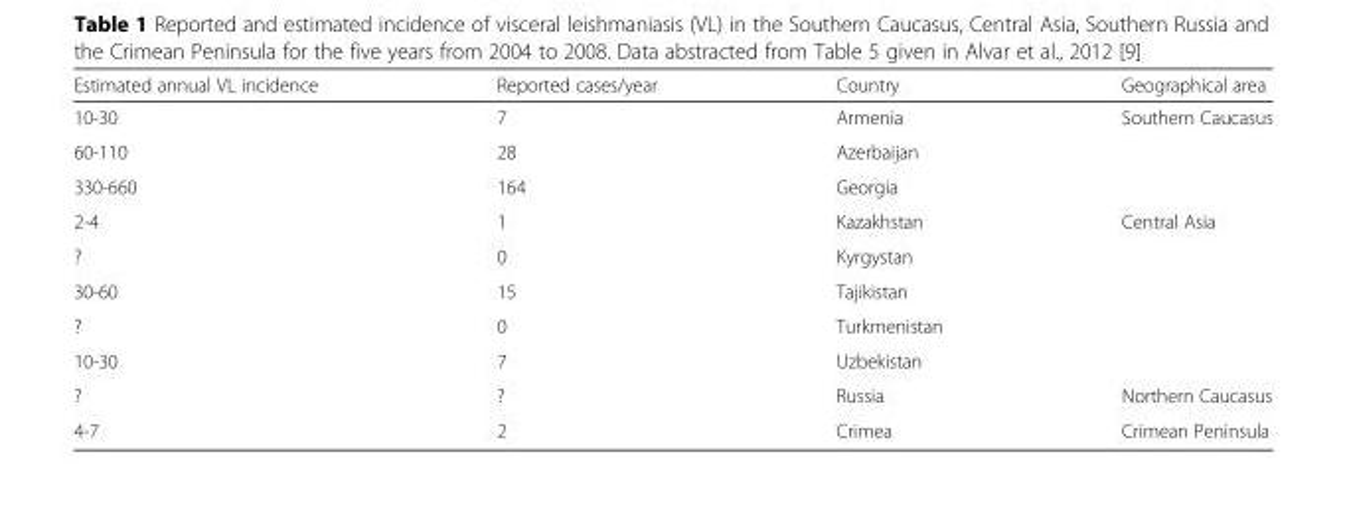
<table><thead><tr><td>Estimated annual VL incidence</td><td>Reported cases/year</td><td>Country</td><td>Geographical area</td></tr></thead><tbody><tr><td>10-30</td><td>7</td><td>Armenia</td><td rowspan="3">Southern Caucasus</td></tr><tr><td>60-110</td><td>28</td><td>Azerbaijan</td></tr><tr><td>330-660</td><td>164</td><td>Georgia</td></tr><tr><td>2-4</td><td>1</td><td>Kazakhstan</td><td rowspan="5">Central Asia</td></tr><tr><td>?</td><td>0</td><td>Kyrgystan</td></tr><tr><td>30-60</td><td>15</td><td>Tajikistan</td></tr><tr><td>?</td><td>0</td><td>Turkmenistan</td></tr><tr><td>10-30</td><td>7</td><td>Uzbekistan</td></tr><tr><td>?</td><td>?</td><td>Russia</td><td>Northern Caucasus</td></tr><tr><td>4-7</td><td>2</td><td>Crimea</td><td>Crimean Peninsula</td></tr></tbody></table>